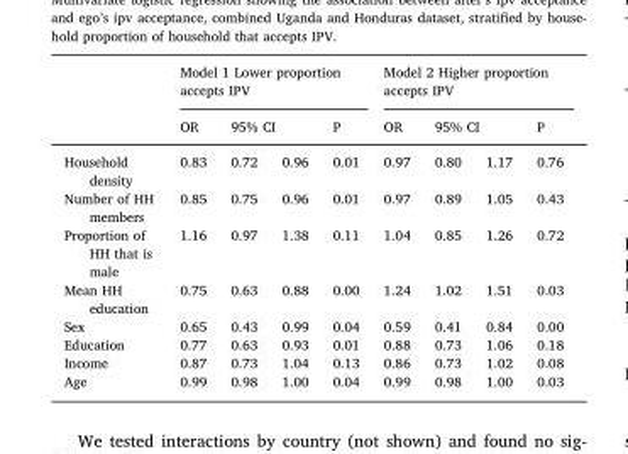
<table><thead><tr><td rowspan="3">Household density</td><td colspan="4">Model 1 Lower proportion accepts IPV</td><td colspan="4">Model 2 Higher proportion accepts IPV</td></tr><tr><td rowspan="2">OR 0.83</td><td colspan="2">95% CI</td><td rowspan="2">P 0.01</td><td rowspan="2">OR 0.97</td><td colspan="2">95% CI</td><td rowspan="2">P 0.76</td></tr><tr><td>0.72</td><td>0.96</td><td>0.80</td><td>1.17</td></tr></thead><tbody><tr><td>Number of HH members</td><td>0.85</td><td>0.75</td><td>0.96</td><td>0.01</td><td>0.97</td><td>0.89</td><td>1.05</td><td>0.43</td></tr><tr><td>Proportion of HH that is male</td><td>1.16</td><td>0.97</td><td>1.38</td><td>0.11</td><td>1.04</td><td>0.85</td><td>1.26</td><td>0.72</td></tr><tr><td>Mean HH education</td><td>0.75</td><td>0.63</td><td>0.88</td><td>0.00</td><td>1.24</td><td>1.02</td><td>1.51</td><td>0.03</td></tr><tr><td>Sex</td><td>0.65</td><td>0.43</td><td>0.99</td><td>0.04</td><td>0.59</td><td>0.41</td><td>0.84</td><td>0.00</td></tr><tr><td>Education</td><td>0.77</td><td>0.63</td><td>0.93</td><td>0.01</td><td>0.88</td><td>0.73</td><td>1.06</td><td>0.18</td></tr><tr><td>Income</td><td>0.87</td><td>0.73</td><td>1.04</td><td>0.13</td><td>0.86</td><td>0.73</td><td>1.02</td><td>0.08</td></tr><tr><td>Age</td><td>0.99</td><td>0.98</td><td>1.00</td><td>0.04</td><td>0.99</td><td>0.98</td><td>1.00</td><td>0.03</td></tr></tbody></table>